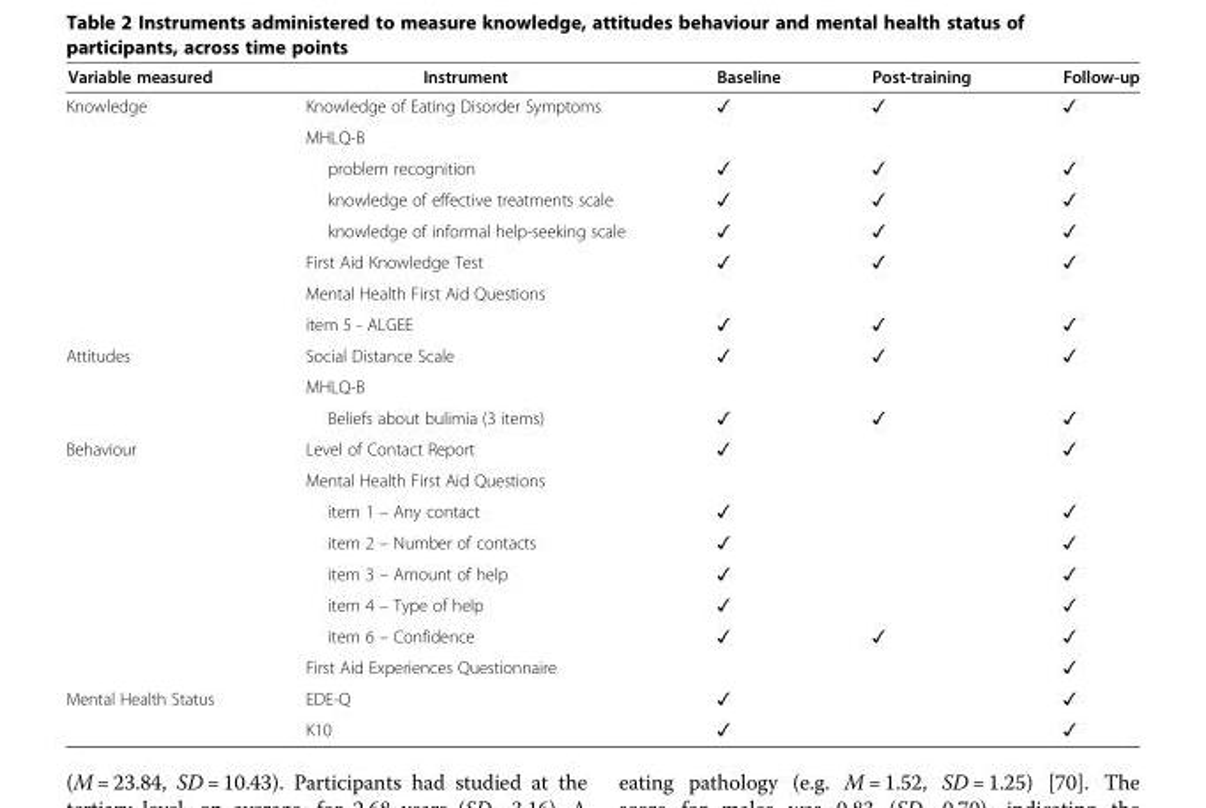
<table><thead><tr><td>Variable measured</td><td>Instrument</td><td>Baseline</td><td>Post-training</td><td>Follow-up</td></tr></thead><tbody><tr><td rowspan="8">Knowledge</td><td>Knowledge of Eating Disorder Symptoms</td><td>✓</td><td>✓</td><td>✓</td></tr><tr><td>MHLQ-B</td><td></td><td></td><td></td></tr><tr><td>problem recognition</td><td>✓</td><td>✓</td><td>✓</td></tr><tr><td>knowledge of effective treatments scale</td><td>✓</td><td>✓</td><td>✓</td></tr><tr><td>knowledge of informal help-seeking scale</td><td>✓</td><td>✓</td><td>✓</td></tr><tr><td>First Aid Knowledge Test</td><td>✓</td><td>✓</td><td>✓</td></tr><tr><td>Mental Health First Aid Questions</td><td></td><td></td><td></td></tr><tr><td>item 5 - ALGEE</td><td>✓</td><td>✓</td><td>✓</td></tr><tr><td rowspan="3">Attitudes</td><td>Social Distance Scale</td><td>✓</td><td>✓</td><td>✓</td></tr><tr><td>MHLQ-B</td><td></td><td></td><td></td></tr><tr><td>Beliefs about bulimia (3 items)</td><td>✓</td><td>✓</td><td>✓</td></tr><tr><td rowspan="8">Behaviour</td><td>Level of Contact Report</td><td>✓</td><td></td><td>✓</td></tr><tr><td>Mental Health First Aid Questions</td><td></td><td></td><td></td></tr><tr><td>item 1 – Any contact</td><td>✓</td><td></td><td>✓</td></tr><tr><td>item 2 – Number of contacts</td><td>✓</td><td></td><td>✓</td></tr><tr><td>item 3 – Amount of help</td><td>✓</td><td></td><td>✓</td></tr><tr><td>item 4 – Type of help</td><td>✓</td><td></td><td>✓</td></tr><tr><td>item 6 – Confidence</td><td>✓</td><td>✓</td><td>✓</td></tr><tr><td>First Aid Experiences Questionnaire</td><td></td><td></td><td>✓</td></tr><tr><td rowspan="2">Mental Health Status</td><td>EDE-Q</td><td>✓</td><td></td><td>✓</td></tr><tr><td>K10</td><td>✓</td><td></td><td>✓</td></tr></tbody></table>